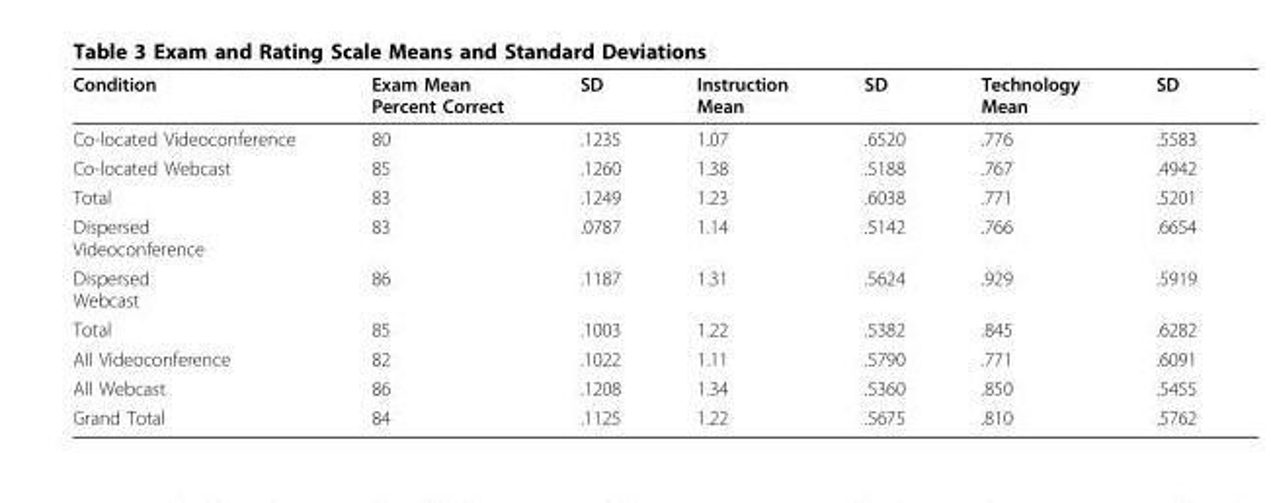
<table><thead><tr><td>Condition</td><td>Exam Mean Percent Correct</td><td>SD</td><td>Instruction Mean</td><td>SD</td><td>Technology Mean</td><td>SD</td></tr></thead><tbody><tr><td>Co-located Videoconference</td><td>80</td><td>.1235</td><td>1.07</td><td>.6520</td><td>.776</td><td>.5583</td></tr><tr><td>Co-located Webcast</td><td>85</td><td>.1260</td><td>1.38</td><td>.5188</td><td>.767</td><td>.4942</td></tr><tr><td>Total</td><td>83</td><td>.1249</td><td>1.23</td><td>.6038</td><td>.771</td><td>.5201</td></tr><tr><td>Dispersed Videoconference</td><td>83</td><td>.0787</td><td>1.14</td><td>.5142</td><td>.766</td><td>.6654</td></tr><tr><td>Dispersed Webcast</td><td>86</td><td>.1187</td><td>1.31</td><td>.5624</td><td>.929</td><td>.5919</td></tr><tr><td>Total</td><td>85</td><td>.1003</td><td>1.22</td><td>.5382</td><td>.845</td><td>.6282</td></tr><tr><td>All Videoconference</td><td>82</td><td>.1022</td><td>1.11</td><td>.5790</td><td>.771</td><td>.6091</td></tr><tr><td>All Webcast</td><td>86</td><td>.1208</td><td>1.34</td><td>.5360</td><td>.850</td><td>.5455</td></tr><tr><td>Grand Total</td><td>84</td><td>.1125</td><td>1.22</td><td>.5675</td><td>.810</td><td>.5762</td></tr></tbody></table>